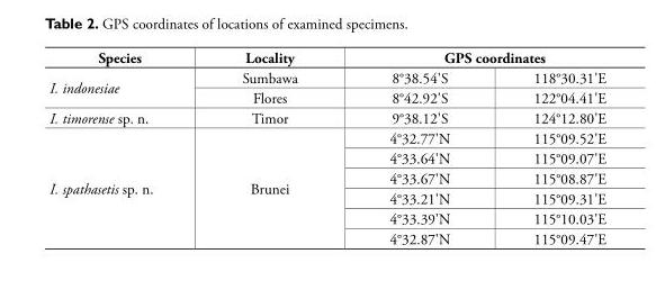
<table><tbody><tr><td>Species</td><td>Locality</td><td>GPS coordinates</td></tr><tr><td rowspan="2">I. indonesiae</td><td>Sumbawa</td><td>8°38.54&#x27;S 118°30.31&#x27;E</td></tr><tr><td>Flores</td><td>8°42.92&#x27;S 122°04.41&#x27;E</td></tr><tr><td>I. timorense sp. n.</td><td>Timor</td><td>9°38.12&#x27;S 124°12.80&#x27;E</td></tr><tr><td rowspan="6">I. spathasetis sp. n.</td><td rowspan="6">Brunei</td><td>4°32.77&#x27;N 115°09.52&#x27;E</td></tr><tr><td>4°33.64&#x27;N 115°09.07&#x27;E</td></tr><tr><td>4°33.67&#x27;N 115°08.87&#x27;E</td></tr><tr><td>4°33.21&#x27;N 115°09.31&#x27;E</td></tr><tr><td>4°33.39&#x27;N 115°10.03&#x27;E</td></tr><tr><td>4°32.87&#x27;N 115°09.47&#x27;E</td></tr></tbody></table>